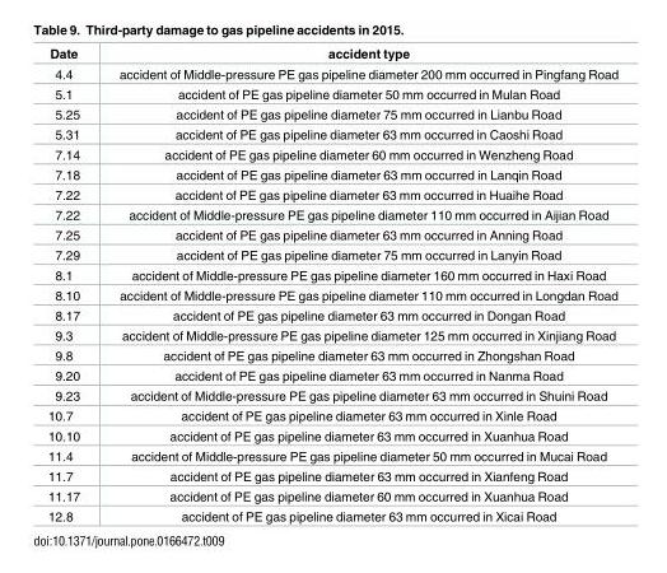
<table><thead><tr><td>Date</td><td>accident type</td></tr></thead><tbody><tr><td>4.4</td><td>accident of Middle-pressure PE gas pipeline diameter 200 mm occurred in Pingfang Road</td></tr><tr><td>5.1</td><td>accident of PE gas pipeline diameter 50 mm occurred in Mulan Road</td></tr><tr><td>5.25</td><td>accident of PE gas pipeline diameter 75 mm occurred in Lianbu Road</td></tr><tr><td>5.31</td><td>accident of PE gas pipeline diameter 63 mm occurred in Caoshi Road</td></tr><tr><td>7.14</td><td>accident of PE gas pipeline diameter 60 mm occurred in Wenzheng Road</td></tr><tr><td>7.18</td><td>accident of PE gas pipeline diameter 63 mm occurred in Lanqin Road</td></tr><tr><td>7.22</td><td>accident of PE gas pipeline diameter 63 mm occurred in Huaihe Road</td></tr><tr><td>7.22</td><td>accident of Middle-pressure PE gas pipeline diameter 110 mm occurred in Aijian Road</td></tr><tr><td>7.25</td><td>accident of PE gas pipeline diameter 63 mm occurred in Anning Road</td></tr><tr><td>7.29</td><td>accident of PE gas pipeline diameter 75 mm occurred in Lanyin Road</td></tr><tr><td>8.1</td><td>accident of Middle-pressure PE gas pipeline diameter 160 mm occurred in Haxi Road</td></tr><tr><td>8.10</td><td>accident of Middle-pressure PE gas pipeline diameter 110 mm occurred in Longdan Road</td></tr><tr><td>8.17</td><td>accident of PE gas pipeline diameter 63 mm occurred in Dongan Road</td></tr><tr><td>9.3</td><td>accident of Middle-pressure PE gas pipeline diameter 125 mm occurred in Xinjiang Road</td></tr><tr><td>9.8</td><td>accident of PE gas pipeline diameter 63 mm occurred in Zhongshan Road</td></tr><tr><td>9.20</td><td>accident of PE gas pipeline diameter 63 mm occurred in Nanma Road</td></tr><tr><td>9.23</td><td>accident of Middle-pressure PE gas pipeline diameter 63 mm occurred in Shuini Road</td></tr><tr><td>10.7</td><td>accident of PE gas pipeline diameter 63 mm occurred in Xinle Road</td></tr><tr><td>10.10</td><td>accident of PE gas pipeline diameter 63 mm occurred in Xuanhua Road</td></tr><tr><td>11.4</td><td>accident of Middle-pressure PE gas pipeline diameter 50 mm occurred in Mucai Road</td></tr><tr><td>11.7</td><td>accident of PE gas pipeline diameter 63 mm occurred in Xianfeng Road</td></tr><tr><td>11.17</td><td>accident of PE gas pipeline diameter 60 mm occurred in Xuanhua Road</td></tr><tr><td>12.8</td><td>accident of PE gas pipeline diameter 63 mm occurred in Xicai Road</td></tr></tbody></table>